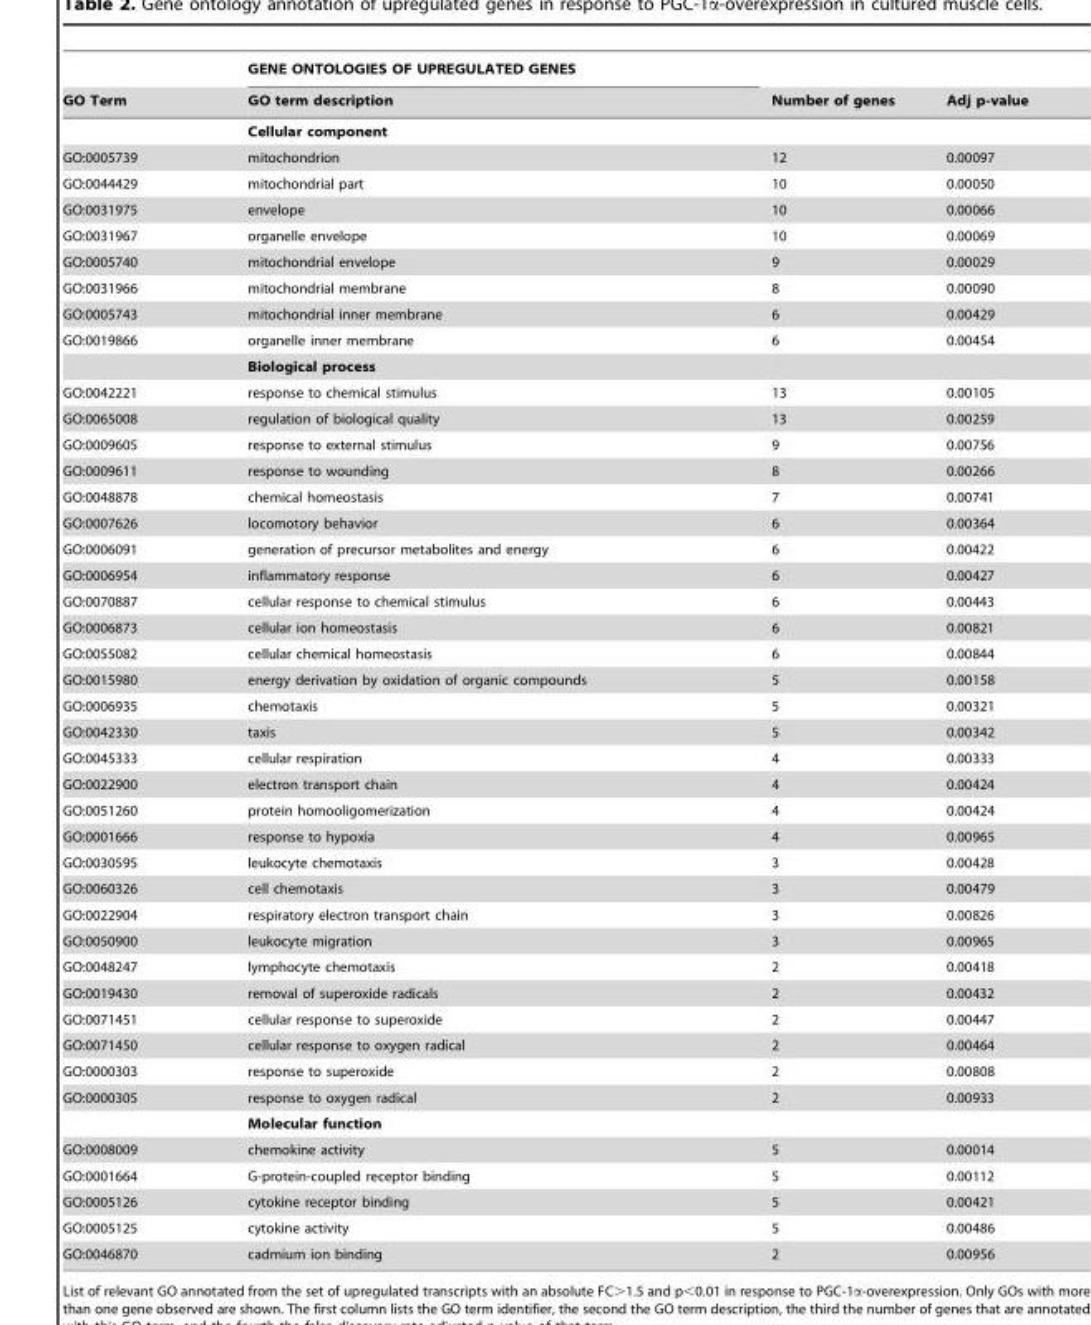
<table><thead><tr><td rowspan="2">GO Term</td><td rowspan="2">GENE ONTOLOGIES OF UPREGULATED GENES GO term description</td><td rowspan="2">Number of genes</td><td rowspan="2">Adj p-value</td></tr><tr></tr></thead><tbody><tr><td></td><td>Cellular component</td><td></td><td></td></tr><tr><td>GO:0005739</td><td>mitochondrion</td><td>12</td><td>0.00097</td></tr><tr><td>GO:0044429</td><td>mitochondrial part</td><td>10</td><td>0.00050</td></tr><tr><td>GO:0031975</td><td>envelope</td><td>10</td><td>0.00066</td></tr><tr><td>GO:0031967</td><td>organelle envelope</td><td>10</td><td>0.00069</td></tr><tr><td>GO:0005740</td><td>mitochondrial envelope</td><td>9</td><td>0.00029</td></tr><tr><td>GO:0031966</td><td>mitochondrial membrane</td><td>8</td><td>0.00090</td></tr><tr><td>GO:0005743</td><td>mitochondrial inner membrane</td><td>6</td><td>0.00429</td></tr><tr><td rowspan="2">GO:0019866</td><td>organelle inner membrane</td><td>6</td><td>0.00454</td></tr><tr><td>Biological process</td><td></td><td></td></tr><tr><td>GO:0042221</td><td>response to chemical stimulus</td><td>13</td><td>0.00105</td></tr><tr><td>GO:0065008</td><td>regulation of biological quality</td><td>13</td><td>0.00259</td></tr><tr><td>GO:0009605</td><td>response to external stimulus</td><td>9</td><td>0.00756</td></tr><tr><td>GO:0009611</td><td>response to wounding</td><td>8</td><td>0.00266</td></tr><tr><td>GO:0048878</td><td>chemical homeostasis</td><td>7</td><td>0.00741</td></tr><tr><td>GO:0007626</td><td>locomotory behavior</td><td>6</td><td>0.00364</td></tr><tr><td>GO:0006091</td><td>generation of precursor metabolites and energy</td><td>6</td><td>0.00422</td></tr><tr><td>GO:0006954</td><td>inflammatory response</td><td>6</td><td>0.00427</td></tr><tr><td>GO:0070887</td><td>cellular response to chemical stimulus</td><td>6</td><td>0.00443</td></tr><tr><td>GO:0006873</td><td>cellular ion homeostasis</td><td>6</td><td>0.00821</td></tr><tr><td>GO:0055082</td><td>cellular chemical homeostasis</td><td>6</td><td>0.00844</td></tr><tr><td>GO:0015980</td><td>energy derivation by oxidation of organic compounds</td><td>5</td><td>0.00158</td></tr><tr><td>GO:0006935</td><td>chemotaxis</td><td>5</td><td>0.00321</td></tr><tr><td>GO:0042330</td><td>taxis</td><td>5</td><td>0.00342</td></tr><tr><td>GO:0045333</td><td>cellular respiration</td><td>4</td><td>0.00333</td></tr><tr><td>GO:0022900</td><td>electron transport chain</td><td>4</td><td>0.00424</td></tr><tr><td>GO:0051260</td><td>protein homooligomerization</td><td>4</td><td>0.00424</td></tr><tr><td>GO:0001666</td><td>response to hypoxia</td><td>4</td><td>0.00965</td></tr><tr><td>GO:0030595</td><td>leukocyte chemotaxis</td><td>3</td><td>0.00428</td></tr><tr><td>GO:0060326</td><td>cell chemotaxis</td><td>3</td><td>0.00479</td></tr><tr><td>GO:0022904</td><td>respiratory electron transport chain</td><td>3</td><td>0.00826</td></tr><tr><td>GO:0050900</td><td>leukocyte migration</td><td>3</td><td>0.00965</td></tr><tr><td>GO:0048247</td><td>lymphocyte chemotaxis</td><td>2</td><td>0.00418</td></tr><tr><td>GO:0019430</td><td>removal of superoxide radicals</td><td>2</td><td>0.00432</td></tr><tr><td>GO:0071451</td><td>cellular response to superoxide</td><td>2</td><td>0.00447</td></tr><tr><td>GO:0071450</td><td>cellular response to oxygen radical</td><td>2</td><td>0.00464</td></tr><tr><td>GO:0000303</td><td>response to superoxide</td><td>2</td><td>0.00808</td></tr><tr><td rowspan="2">GO:0000305</td><td>response to oxygen radical</td><td>2</td><td>0.00933</td></tr><tr><td>Molecular function</td><td></td><td></td></tr><tr><td>GO:0008009</td><td>chemokine activity</td><td>5</td><td>0.00014</td></tr><tr><td>GO:0001664</td><td>G-protein-coupled receptor binding</td><td>5</td><td>0.00112</td></tr><tr><td>GO:0005126</td><td>cytokine receptor binding</td><td>5</td><td>0.00421</td></tr><tr><td>GO:0005125</td><td>cytokine activity</td><td>5</td><td>0.00486</td></tr><tr><td>GO:0046870</td><td>cadmium ion binding</td><td>2</td><td>0.00956</td></tr></tbody></table>